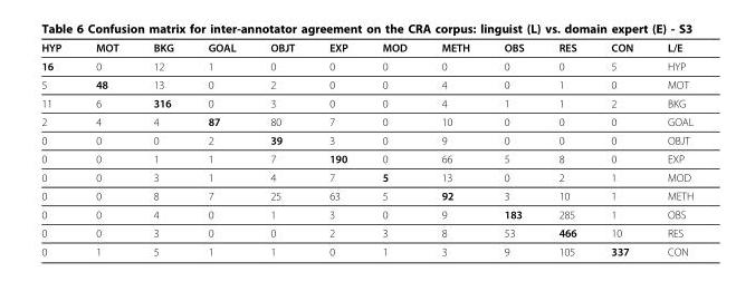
<table><thead><tr><td>HYP</td><td>MOT</td><td>BKG</td><td>GOAL</td><td>OBJT</td><td>EXP</td><td>MOD</td><td>METH</td><td>OBS</td><td>RES</td><td>CON</td><td>L/E</td></tr></thead><tbody><tr><td>16</td><td>0</td><td>12</td><td>1</td><td>0</td><td>0</td><td>0</td><td>0</td><td>0</td><td>0</td><td>5</td><td>HYP</td></tr><tr><td>5</td><td>48</td><td>13</td><td>0</td><td>2</td><td>0</td><td>0</td><td>4</td><td>0</td><td>1</td><td>0</td><td>MOT</td></tr><tr><td>11</td><td>6</td><td>316</td><td>0</td><td>3</td><td>0</td><td>0</td><td>4</td><td>1</td><td>1</td><td>2</td><td>BKG</td></tr><tr><td>2</td><td>4</td><td>4</td><td>87</td><td>80</td><td>7</td><td>0</td><td>10</td><td>0</td><td>0</td><td>0</td><td>GOAL</td></tr><tr><td>0</td><td>0</td><td>0</td><td>2</td><td>39</td><td>3</td><td>0</td><td>9</td><td>0</td><td>0</td><td>0</td><td>OBJT</td></tr><tr><td>0</td><td>0</td><td>1</td><td>1</td><td>7</td><td>190</td><td>0</td><td>66</td><td>5</td><td>8</td><td>0</td><td>EXP</td></tr><tr><td>0</td><td>0</td><td>3</td><td>1</td><td>4</td><td>7</td><td>5</td><td>13</td><td>0</td><td>2</td><td>1</td><td>MOD</td></tr><tr><td>0</td><td>0</td><td>8</td><td>7</td><td>25</td><td>63</td><td>5</td><td>92</td><td>3</td><td>10</td><td>1</td><td>METH</td></tr><tr><td>0</td><td>0</td><td>4</td><td>0</td><td>1</td><td>3</td><td>0</td><td>9</td><td>183</td><td>285</td><td>1</td><td>OBS</td></tr><tr><td>0</td><td>0</td><td>3</td><td>0</td><td>0</td><td>2</td><td>3</td><td>8</td><td>53</td><td>466</td><td>10</td><td>RES</td></tr><tr><td>0</td><td>1</td><td>5</td><td>1</td><td>1</td><td>0</td><td>1</td><td>3</td><td>9</td><td>105</td><td>337</td><td>CON</td></tr></tbody></table>